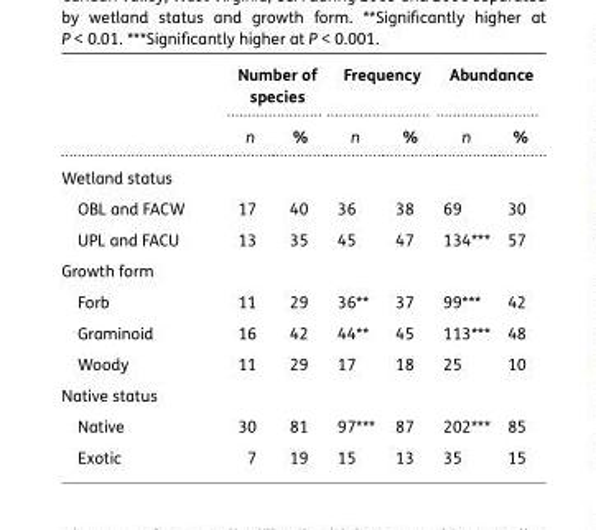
<table><thead><tr><td rowspan="2"></td><td colspan="2">Number of species</td><td colspan="2">Frequency</td><td colspan="2">Abundance</td></tr><tr><td>n</td><td>%</td><td>n</td><td>%</td><td>n</td><td>%</td></tr></thead><tbody><tr><td colspan="7">Wetland status</td></tr><tr><td>OBL and FACW</td><td>17</td><td>40</td><td>36</td><td>38</td><td>69</td><td>30</td></tr><tr><td>UPL and FACU</td><td>13</td><td>35</td><td>45</td><td>47</td><td>134***</td><td>57</td></tr><tr><td colspan="7">Growth form</td></tr><tr><td>Forb</td><td>11</td><td>29</td><td>36**</td><td>37</td><td>99***</td><td>42</td></tr><tr><td>Graminoid</td><td>16</td><td>42</td><td>44**</td><td>45</td><td>113***</td><td>48</td></tr><tr><td>Woody</td><td>11</td><td>29</td><td>17</td><td>18</td><td>25</td><td>10</td></tr><tr><td colspan="7">Native status</td></tr><tr><td>Native</td><td>30</td><td>81</td><td>97***</td><td>87</td><td>202***</td><td>85</td></tr><tr><td>Exotic</td><td>7</td><td>19</td><td>15</td><td>13</td><td>35</td><td>15</td></tr></tbody></table>